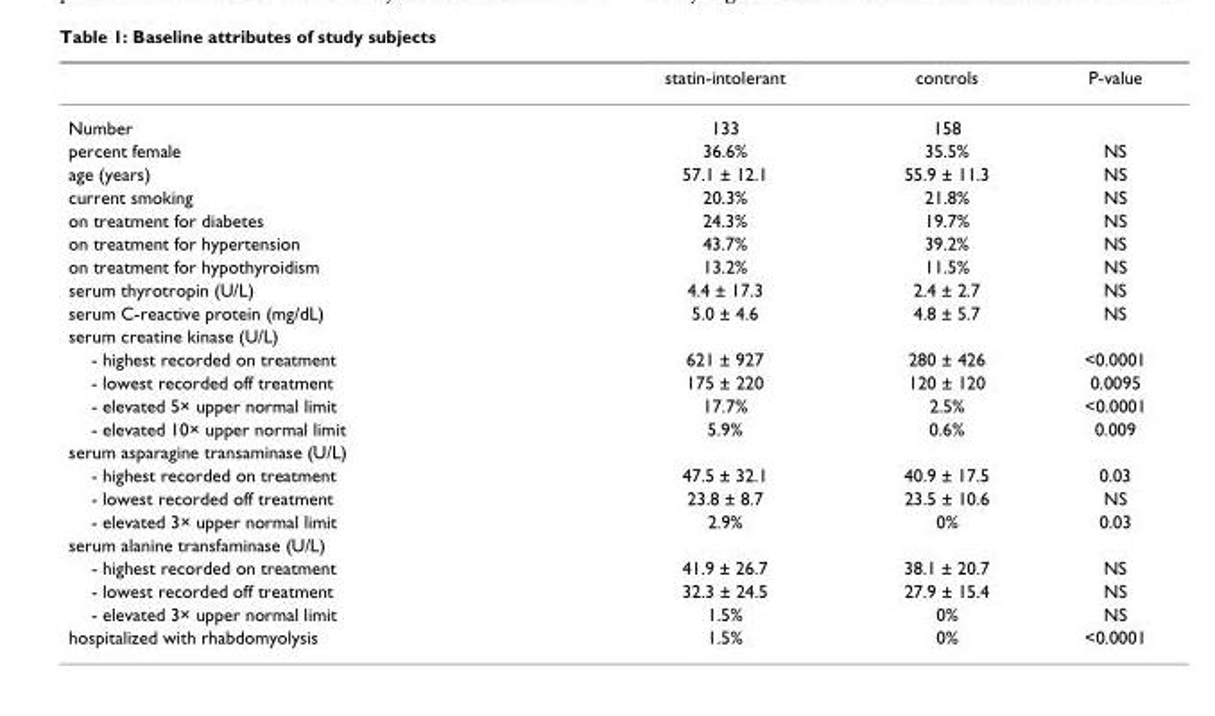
<table><thead><tr><td></td><td>statin-intolerant</td><td>controls</td><td>P-value</td></tr></thead><tbody><tr><td>Number</td><td>133</td><td>158</td><td></td></tr><tr><td>percent female</td><td>36.6%</td><td>35.5%</td><td>NS</td></tr><tr><td>age (years)</td><td>57.1 ± 12.1</td><td>55.9 ± 11.3</td><td>NS</td></tr><tr><td>current smoking</td><td>20.3%</td><td>21.8%</td><td>NS</td></tr><tr><td>on treatment for diabetes</td><td>24.3%</td><td>19.7%</td><td>NS</td></tr><tr><td>on treatment for hypertension</td><td>43.7%</td><td>39.2%</td><td>NS</td></tr><tr><td>on treatment for hypothyroidism</td><td>13.2%</td><td>11.5%</td><td>NS</td></tr><tr><td>serum thyrotropin (U/L)</td><td>4.4 ± 17.3</td><td>2.4 ± 2.7</td><td>NS</td></tr><tr><td>serum C-reactive protein (mg/dL)</td><td>5.0 ± 4.6</td><td>4.8 ± 5.7</td><td>NS</td></tr><tr><td colspan="4">serum creatine kinase (U/L)</td></tr><tr><td>- highest recorded on treatment</td><td>621 ± 927</td><td>280 ± 426</td><td>&lt;0.0001</td></tr><tr><td>- lowest recorded off treatment</td><td>175 ± 220</td><td>120 ± 120</td><td>0.0095</td></tr><tr><td>- elevated 5× upper normal limit</td><td>17.7%</td><td>2.5%</td><td>&lt;0.0001</td></tr><tr><td>- elevated 10× upper normal limit</td><td>5.9%</td><td>0.6%</td><td>0.009</td></tr><tr><td colspan="4">serum asparagine transaminase (U/L)</td></tr><tr><td>- highest recorded on treatment</td><td>47.5 ± 32.1</td><td>40.9 ± 17.5</td><td>0.03</td></tr><tr><td>- lowest recorded off treatment</td><td>23.8 ± 8.7</td><td>23.5 ± 10.6</td><td>NS</td></tr><tr><td>- elevated 3× upper normal limit</td><td>2.9%</td><td>0%</td><td>0.03</td></tr><tr><td colspan="4">serum alanine transfaminase (U/L)</td></tr><tr><td>- highest recorded on treatment</td><td>41.9 ± 26.7</td><td>38.1 ± 20.7</td><td>NS</td></tr><tr><td>- lowest recorded off treatment</td><td>32.3 ± 24.5</td><td>27.9 ± 15.4</td><td>NS</td></tr><tr><td>- elevated 3× upper normal limit</td><td>1.5%</td><td>0%</td><td>NS</td></tr><tr><td>hospitalized with rhabdomyolysis</td><td>1.5%</td><td>0%</td><td>&lt;0.0001</td></tr></tbody></table>